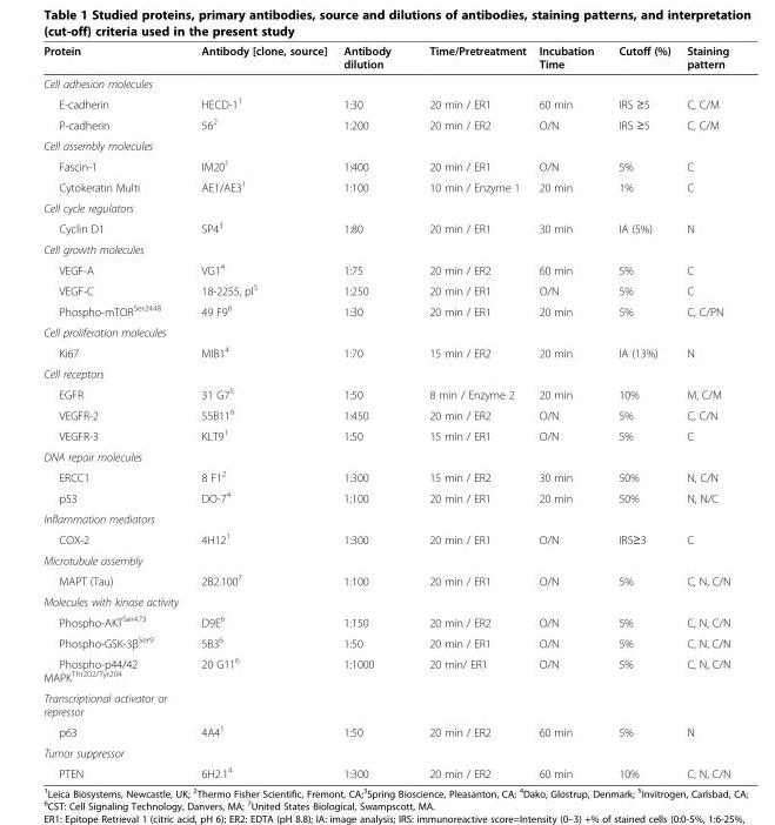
<table><thead><tr><td>Protein</td><td>Antibody [clone, source]</td><td>Antibody dilution</td><td>Time/Pretreatment</td><td>Incubation Time</td><td>Cutoff (%)</td><td>Staining pattern</td></tr></thead><tbody><tr><td colspan="7">Cell adhesion molecules</td></tr><tr><td>E-cadherin</td><td>HECD-1<sup>1</sup></td><td>1:30</td><td>20 min / ER1</td><td>60 min</td><td>IRS ≥5</td><td>C, C/M</td></tr><tr><td>P-cadherin</td><td>56<sup>2</sup></td><td>1:200</td><td>20 min / ER2</td><td>O/N</td><td>IRS ≥5</td><td>C, C/M</td></tr><tr><td colspan="7">Cell assembly molecules</td></tr><tr><td>Fascin-1</td><td>IM20<sup>1</sup></td><td>1:400</td><td>20 min / ER1</td><td>O/N</td><td>5%</td><td>C</td></tr><tr><td>Cytokeratin Multi</td><td>AE1/AE3<sup>1</sup></td><td>1:100</td><td>10 min / Enzyme 1</td><td>20 min</td><td>1%</td><td>C</td></tr><tr><td colspan="7">Cell cycle regulators</td></tr><tr><td>Cyclin D1</td><td>SP4<sup>3</sup></td><td>1:80</td><td>20 min / ER1</td><td>30 min</td><td>IA (5%)</td><td>N</td></tr><tr><td colspan="7">Cell growth molecules</td></tr><tr><td>VEGF-A</td><td>VG1<sup>4</sup></td><td>1:75</td><td>20 min / ER2</td><td>60 min</td><td>5%</td><td>C</td></tr><tr><td>VEGF-C</td><td>18-2255, pl<sup>5</sup></td><td>1:250</td><td>20 min / ER1</td><td>O/N</td><td>5%</td><td>C</td></tr><tr><td>Phospho-mTOR<sup>Ser2448</sup></td><td>49 F9<sup>6</sup></td><td>1:30</td><td>20 min / ER1</td><td>20 min</td><td>5%</td><td>C, C/PN</td></tr><tr><td colspan="7">Cell proliferation molecules</td></tr><tr><td>Ki67</td><td>MIB1<sup>4</sup></td><td>1:70</td><td>15 min / ER2</td><td>20 min</td><td>IA (13%)</td><td>N</td></tr><tr><td colspan="7">Cell receptors</td></tr><tr><td>EGFR</td><td>31 G7<sup>5</sup></td><td>1:50</td><td>8 min / Enzyme 2</td><td>20 min</td><td>10%</td><td>M, C/M</td></tr><tr><td>VEGFR-2</td><td>55B11<sup>6</sup></td><td>1:450</td><td>20 min / ER2</td><td>O/N</td><td>5%</td><td>C, C/N</td></tr><tr><td>VEGFR-3</td><td>KLT9<sup>1</sup></td><td>1:50</td><td>15 min / ER1</td><td>O/N</td><td>5%</td><td>C</td></tr><tr><td colspan="7">DNA repair molecules</td></tr><tr><td>ERCC1</td><td>8 F1<sup>2</sup></td><td>1:300</td><td>15 min / ER2</td><td>30 min</td><td>50%</td><td>N, C/N</td></tr><tr><td>p53</td><td>DO-7<sup>4</sup></td><td>1:100</td><td>20 min / ER1</td><td>20 min</td><td>50%</td><td>N, N/C</td></tr><tr><td colspan="7">Inflammation mediators</td></tr><tr><td>COX-2</td><td>4H12<sup>1</sup></td><td>1:300</td><td>20 min / ER1</td><td>O/N</td><td>IRS≥3</td><td>C</td></tr><tr><td colspan="7">Microtubule assembly</td></tr><tr><td>MAPT (Tau)</td><td>2B2.100<sup>7</sup></td><td>1:100</td><td>20 min / ER1</td><td>O/N</td><td>5%</td><td>C, N, C/N</td></tr><tr><td colspan="7">Molecules with kinase activity</td></tr><tr><td>Phospho-AKT<sup>Ser473</sup></td><td>D9E<sup>6</sup></td><td>1:150</td><td>20 min / ER2</td><td>O/N</td><td>5%</td><td>C, N, C/N</td></tr><tr><td>Phospho-GSK-3β<sup>Ser9</sup></td><td>5B3<sup>6</sup></td><td>1:50</td><td>20 min / ER1</td><td>O/N</td><td>5%</td><td>C, N, C/N</td></tr><tr><td>Phospho-p44/42 MAPK<sup>Thr202/Tyr204</sup></td><td>20 G11<sup>6</sup></td><td>1:1000</td><td>20 min/ ER1</td><td>O/N</td><td>5%</td><td>C, N, C/N</td></tr><tr><td colspan="7">Transcriptional activator or repressor</td></tr><tr><td>p63</td><td>4A4<sup>1</sup></td><td>1:50</td><td>20 min / ER2</td><td>60 min</td><td>5%</td><td>N</td></tr><tr><td colspan="7">Tumor suppressor</td></tr><tr><td>PTEN</td><td>6H2.1<sup>4</sup></td><td>1:300</td><td>20 min / ER2</td><td>60 min</td><td>10%</td><td>C, N, C/N</td></tr></tbody></table>